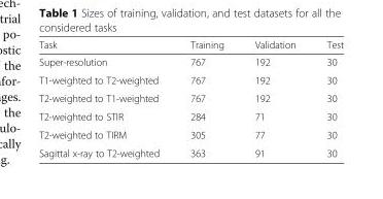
<table><thead><tr><td>Task</td><td>Training</td><td>Validation</td><td>Test</td></tr></thead><tbody><tr><td>Super-resolution</td><td>767</td><td>192</td><td>30</td></tr><tr><td>T1-weighted to T2-weighted</td><td>767</td><td>192</td><td>30</td></tr><tr><td>T2-weighted to T1-weighted</td><td>767</td><td>192</td><td>30</td></tr><tr><td>T2-weighted to STIR</td><td>284</td><td>71</td><td>30</td></tr><tr><td>T2-weighted to TIRM</td><td>305</td><td>77</td><td>30</td></tr><tr><td>Sagittal x-ray to T2-weighted</td><td>363</td><td>91</td><td>30</td></tr></tbody></table>